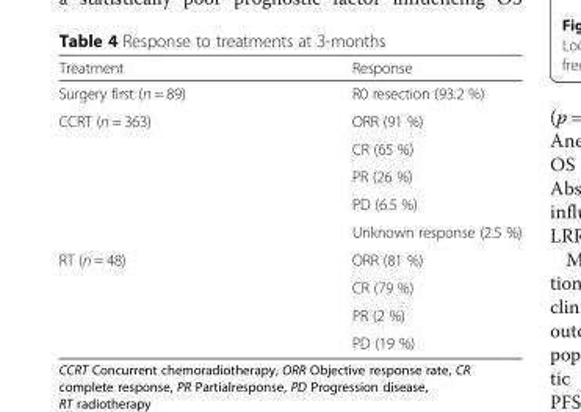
<table><thead><tr><td>Treatment</td><td>Response</td></tr></thead><tbody><tr><td>Surgery first (n = 89)</td><td>R0 resection (93.2 %)</td></tr><tr><td rowspan="5">CCRT (n = 363)</td><td>ORR (91 %)</td></tr><tr><td>CR (65 %)</td></tr><tr><td>PR (26 %)</td></tr><tr><td>PD (6.5 %)</td></tr><tr><td>Unknown response (2.5 %)</td></tr><tr><td rowspan="4">RT (n = 48)</td><td>ORR (81 %)</td></tr><tr><td>CR (79 %)</td></tr><tr><td>PR (2 %)</td></tr><tr><td>PD (19 %)</td></tr></tbody></table>